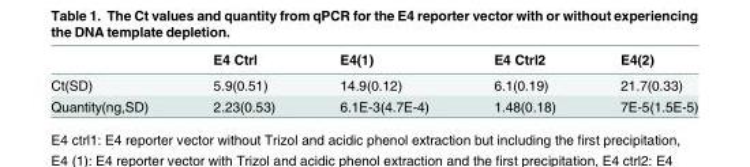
<table><thead><tr><td></td><td>E4 Ctrl</td><td>E4(1)</td><td>E4 Ctrl2</td><td>E4(2)</td></tr></thead><tbody><tr><td>Ct(SD)</td><td>5.9(0.51)</td><td>14.9(0.12)</td><td>6.1(0.19)</td><td>21.7(0.33)</td></tr><tr><td>Quantity(ng,SD)</td><td>2.23(0.53)</td><td>6.1E-3(4.7E-4)</td><td>1.48(0.18)</td><td>7E-5(1.5E-5)</td></tr></tbody></table>